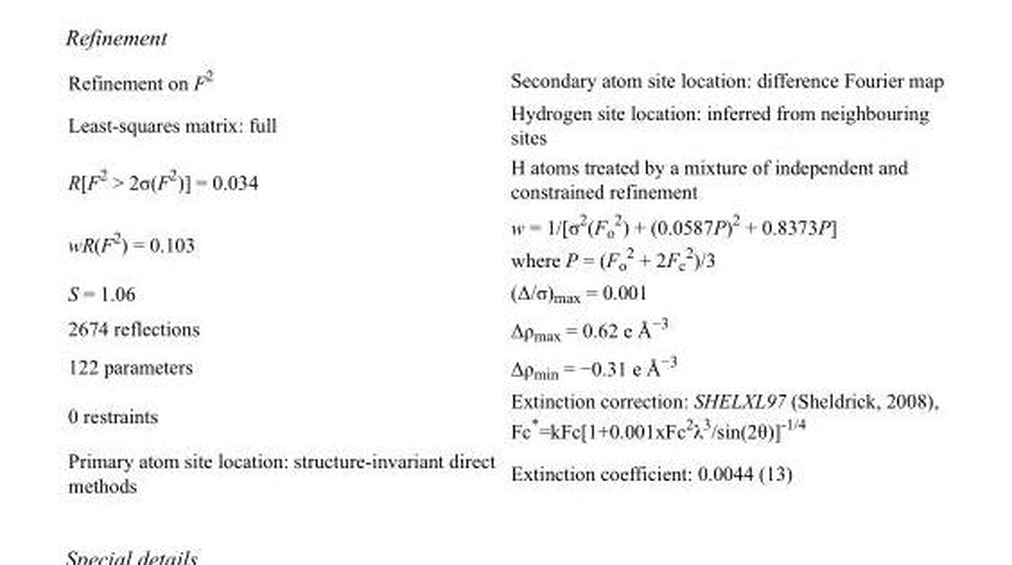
<table><tbody><tr><td>Refinement on F<sup>2</sup></td><td>Secondary atom site location: difference Fourier map</td></tr><tr><td>Least-squares matrix: full</td><td>Hydrogen site location: inferred from neighbouring sites</td></tr><tr><td>R[F<sup>2</sup> &gt; 2σ(F<sup>2</sup>)] = 0.034</td><td>H atoms treated by a mixture of independent and constrained refinement</td></tr><tr><td>wR(F<sup>2</sup>) = 0.103</td><td>w = 1/[σ<sup>2</sup>(F<sub>o</sub> <sup>2</sup>) + (0.0587P)<sup>2</sup> + 0.8373P] where P = (F<sub>o</sub> <sup>2</sup> + 2F<sub>c</sub> <sup>2</sup>)/3</td></tr><tr><td>S = 1.06</td><td>(Δ/σ)<sub>max</sub> = 0.001</td></tr><tr><td>2674 reflections</td><td>Δρ<sub>max</sub> = 0.62 e Å<sup>−3</sup></td></tr><tr><td>122 parameters</td><td>Δρ<sub>min</sub> = −0.31 e Å<sup>−3</sup></td></tr><tr><td>0 restraints</td><td>Extinction correction: SHELXL97 (Sheldrick, 2008), Fc*=kFc[1+0.001xFc<sup>2</sup>λ<sup>3</sup>/sin(2θ)]<sup>-1/4</sup></td></tr><tr><td>Primary atom site location: structure-invariant direct methods</td><td>Extinction coefficient: 0.0044 (13)</td></tr></tbody></table>